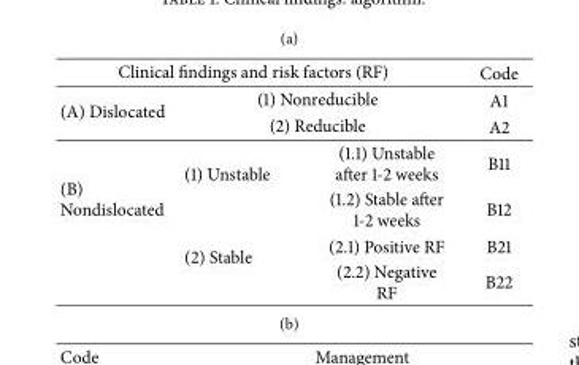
<table><tbody><tr><td colspan="3">Clinical findings and risk factors (RF)</td><td>Code</td></tr><tr><td rowspan="2">(A) Dislocated</td><td colspan="2">(1) Nonreducible</td><td>A1</td></tr><tr><td colspan="2">(2) Reducible</td><td>A2</td></tr><tr><td rowspan="4">(B) Nondislocated</td><td rowspan="2">(1) Unstable</td><td>(1.1) Unstable after 1-2 weeks</td><td>B11</td></tr><tr><td>(1.2) Stable after 1-2 weeks</td><td>B12</td></tr><tr><td rowspan="2">(2) Stable</td><td>(2.1) Positive RF</td><td>B21</td></tr><tr><td>(2.2) Negative RF</td><td>B22</td></tr></tbody></table>